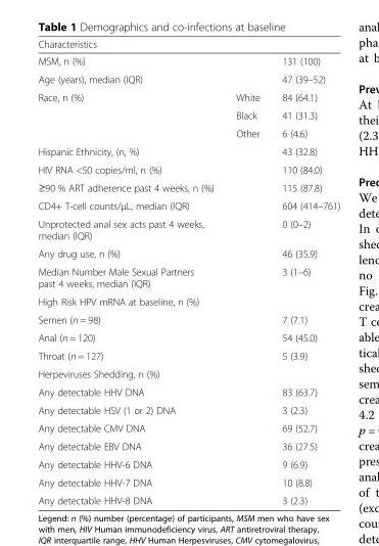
<table><thead><tr><td>Characteristics</td><td></td><td></td></tr></thead><tbody><tr><td>MSM, n (%)</td><td></td><td>131 (100)</td></tr><tr><td>Age (years), median (IQR)</td><td></td><td>47 (39–52)</td></tr><tr><td rowspan="3">Race, n (%)</td><td>White</td><td>84 (64.1)</td></tr><tr><td>Black</td><td>41 (31.3)</td></tr><tr><td>Other</td><td>6 (4.6)</td></tr><tr><td>Hispanic Ethnicity, (n, %)</td><td></td><td>43 (32.8)</td></tr><tr><td>HIV RNA &lt;50 copies/ml, n (%)</td><td></td><td>110 (84.0)</td></tr><tr><td>≥90 % ART adherence past 4 weeks, n (%)</td><td></td><td>115 (87.8)</td></tr><tr><td>CD4+ T-cell counts/μL, median (IQR)</td><td></td><td>604 (414–761)</td></tr><tr><td>Unprotected anal sex acts past 4 weeks, median (IQR)</td><td></td><td>0 (0–2)</td></tr><tr><td>Any drug use, n (%)</td><td></td><td>46 (35.9)</td></tr><tr><td>Median Number Male Sexual Partners past 4 weeks, median (IQR)</td><td></td><td>3 (1–6)</td></tr><tr><td colspan="3">High Risk HPV mRNA at baseline, n (%)</td></tr><tr><td>Semen (n = 98)</td><td></td><td>7 (7.1)</td></tr><tr><td>Anal (n = 120)</td><td></td><td>54 (45.0)</td></tr><tr><td>Throat (n = 127)</td><td></td><td>5 (3.9)</td></tr><tr><td colspan="3">Herpeviruses Shedding, n (%)</td></tr><tr><td>Any detectable HHV DNA</td><td></td><td>83 (63.7)</td></tr><tr><td>Any detectable HSV (1 or 2) DNA</td><td></td><td>3 (2.3)</td></tr><tr><td>Any detectable CMV DNA</td><td></td><td>69 (52.7)</td></tr><tr><td>Any detectable EBV DNA</td><td></td><td>36 (27.5)</td></tr><tr><td>Any detectable HHV-6 DNA</td><td></td><td>9 (6.9)</td></tr><tr><td>Any detectable HHV-7 DNA</td><td></td><td>10 (8.8)</td></tr><tr><td>Any detectable HHV-8 DNA</td><td></td><td>3 (2.3)</td></tr></tbody></table>